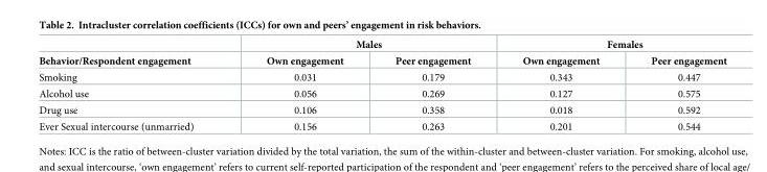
<table><thead><tr><td rowspan="2">Behavior/Respondent engagement</td><td colspan="2">Males</td><td colspan="2">Females</td></tr><tr><td>Own engagement</td><td>Peer engagement</td><td>Own engagement</td><td>Peer engagement</td></tr></thead><tbody><tr><td>Smoking</td><td>0.031</td><td>0.179</td><td>0.343</td><td>0.447</td></tr><tr><td>Alcohol use</td><td>0.056</td><td>0.269</td><td>0.127</td><td>0.575</td></tr><tr><td>Drug use</td><td>0.106</td><td>0.358</td><td>0.018</td><td>0.592</td></tr><tr><td>Ever Sexual intercourse (unmarried)</td><td>0.156</td><td>0.263</td><td>0.201</td><td>0.544</td></tr></tbody></table>